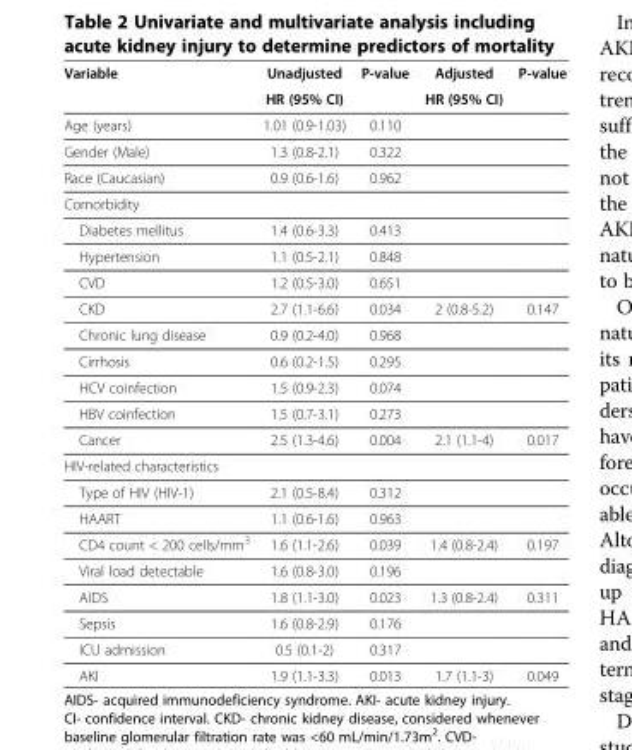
<table><thead><tr><td rowspan="2">Variable</td><td rowspan="2">Unadjusted HR (95% CI)</td><td rowspan="2">P-value</td><td rowspan="2">Adjusted HR (95% CI)</td><td rowspan="2">P-value</td></tr><tr></tr></thead><tbody><tr><td>Age (years)</td><td>1.01 (0.9-1.03)</td><td>0.110</td><td></td><td></td></tr><tr><td>Gender (Male)</td><td>1.3 (0.8-2.1)</td><td>0.322</td><td></td><td></td></tr><tr><td>Race (Caucasian)</td><td>0.9 (0.6-1.6)</td><td>0.962</td><td></td><td></td></tr><tr><td colspan="5">Comorbidity</td></tr><tr><td>Diabetes mellitus</td><td>1.4 (0.6-3.3)</td><td>0.413</td><td></td><td></td></tr><tr><td>Hypertension</td><td>1.1 (0.5-2.1)</td><td>0.848</td><td></td><td></td></tr><tr><td>CVD</td><td>1.2 (0.5-3.0)</td><td>0.651</td><td></td><td></td></tr><tr><td>CKD</td><td>2.7 (1.1-6.6)</td><td>0.034</td><td>2 (0.8-5.2)</td><td>0.147</td></tr><tr><td>Chronic lung disease</td><td>0.9 (0.2-4.0)</td><td>0.968</td><td></td><td></td></tr><tr><td>Cirrhosis</td><td>0.6 (0.2-1.5)</td><td>0.295</td><td></td><td></td></tr><tr><td>HCV coinfection</td><td>1.5 (0.9-2.3)</td><td>0.074</td><td></td><td></td></tr><tr><td>HBV coinfection</td><td>1.5 (0.7-3.1)</td><td>0.273</td><td></td><td></td></tr><tr><td>Cancer</td><td>2.5 (1.3-4.6)</td><td>0.004</td><td>2.1 (1.1-4)</td><td>0.017</td></tr><tr><td colspan="5">HIV-related characteristics</td></tr><tr><td>Type of HIV (HIV-1)</td><td>2.1 (0.5-8.4)</td><td>0.312</td><td></td><td></td></tr><tr><td>HAART</td><td>1.1 (0.6-1.6)</td><td>0.963</td><td></td><td></td></tr><tr><td>CD4 count &lt; 200 cells/mm<sup>3</sup></td><td>1.6 (1.1-2.6)</td><td>0.039</td><td>1.4 (0.8-2.4)</td><td>0.197</td></tr><tr><td>Viral load detectable</td><td>1.6 (0.8-3.0)</td><td>0.196</td><td></td><td></td></tr><tr><td>AIDS</td><td>1.8 (1.1-3.0)</td><td>0.023</td><td>1.3 (0.8-2.4)</td><td>0.311</td></tr><tr><td>Sepsis</td><td>1.6 (0.8-2.9)</td><td>0.176</td><td></td><td></td></tr><tr><td>ICU admission</td><td>0.5 (0.1-2)</td><td>0.317</td><td></td><td></td></tr><tr><td>AKI</td><td>1.9 (1.1-3.3)</td><td>0.013</td><td>1.7 (1.1-3)</td><td>0.049</td></tr></tbody></table>